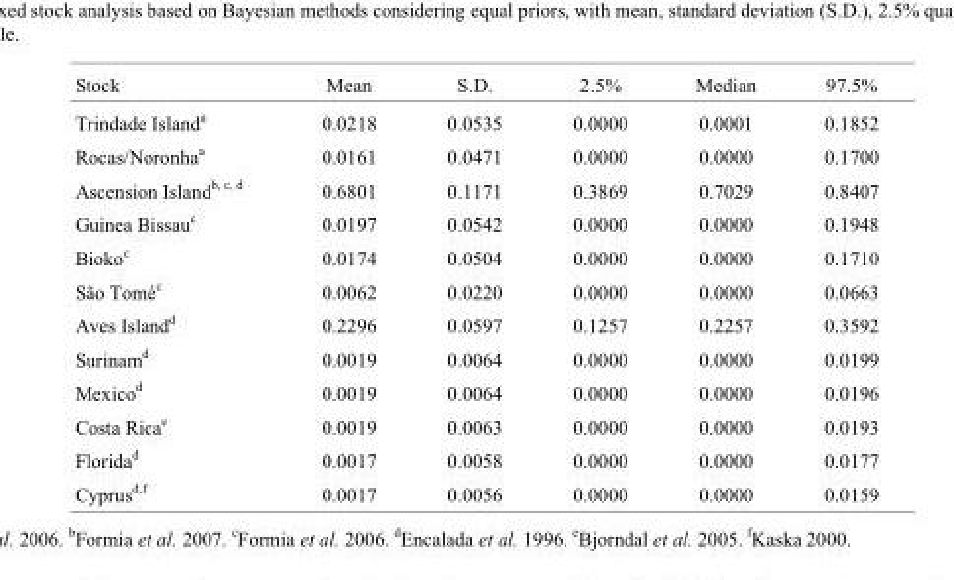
<table><thead><tr><td>Stock</td><td>Mean</td><td>S.D.</td><td>2.5%</td><td>Median</td><td>97.5%</td></tr></thead><tbody><tr><td>Trindade Island<sup>a</sup></td><td>0.0218</td><td>0.0535</td><td>0.0000</td><td>0.0001</td><td>0.1852</td></tr><tr><td>Rocas/Noronha<sup>a</sup></td><td>0.0161</td><td>0.0471</td><td>0.0000</td><td>0.0000</td><td>0.1700</td></tr><tr><td>Ascension Island<sup>b, c, d</sup></td><td>0.6801</td><td>0.1171</td><td>0.3869</td><td>0.7029</td><td>0.8407</td></tr><tr><td>Guinea Bissau<sup>c</sup></td><td>0.0197</td><td>0.0542</td><td>0.0000</td><td>0.0000</td><td>0.1948</td></tr><tr><td>Bioko<sup>c</sup></td><td>0.0174</td><td>0.0504</td><td>0.0000</td><td>0.0000</td><td>0.1710</td></tr><tr><td>São Tomé<sup>c</sup></td><td>0.0062</td><td>0.0220</td><td>0.0000</td><td>0.0000</td><td>0.0663</td></tr><tr><td>Aves Island<sup>d</sup></td><td>0.2296</td><td>0.0597</td><td>0.1257</td><td>0.2257</td><td>0.3592</td></tr><tr><td>Surinam<sup>d</sup></td><td>0.0019</td><td>0.0064</td><td>0.0000</td><td>0.0000</td><td>0.0199</td></tr><tr><td>Mexico<sup>d</sup></td><td>0.0019</td><td>0.0064</td><td>0.0000</td><td>0.0000</td><td>0.0196</td></tr><tr><td>Costa Rica<sup>e</sup></td><td>0.0019</td><td>0.0063</td><td>0.0000</td><td>0.0000</td><td>0.0193</td></tr><tr><td>Florida<sup>d</sup></td><td>0.0017</td><td>0.0058</td><td>0.0000</td><td>0.0000</td><td>0.0177</td></tr><tr><td>Cyprus<sup>d,f</sup></td><td>0.0017</td><td>0.0056</td><td>0.0000</td><td>0.0000</td><td>0.0159</td></tr></tbody></table>